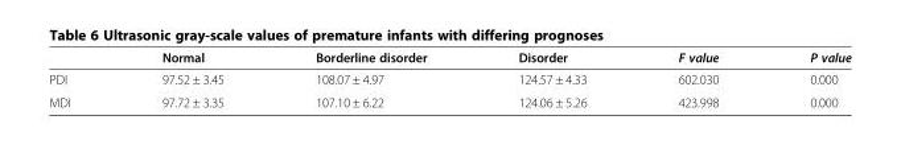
<table><thead><tr><td></td><td>Normal</td><td>Borderline disorder</td><td>Disorder</td><td>F value</td><td>P value</td></tr></thead><tbody><tr><td>PDI</td><td>97.52 ± 3.45</td><td>108.07 ± 4.97</td><td>124.57 ± 4.33</td><td>602.030</td><td>0.000</td></tr><tr><td>MDI</td><td>97.72 ± 3.35</td><td>107.10 ± 6.22</td><td>124.06 ± 5.26</td><td>423.998</td><td>0.000</td></tr></tbody></table>